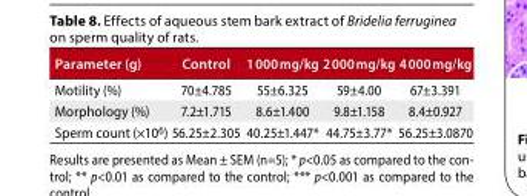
<table><thead><tr><td>Parameter (g)</td><td>Control</td><td>1 000 mg/kg</td><td>2 000 mg/kg</td><td>4 000 mg/kg</td></tr></thead><tbody><tr><td>Motility (%)</td><td>70±4.785</td><td>55±6.325</td><td>59±4.00</td><td>67±3.391</td></tr><tr><td>Morphology (%)</td><td>7.2±1.715</td><td>8.6±1.400</td><td>9.8±1.158</td><td>8.4±0.927</td></tr><tr><td>Sperm count (×10<sup>6</sup>)</td><td>56.25±2.305</td><td>40.25±1.447*</td><td>44.75±3.77*</td><td>56.25±3.0870</td></tr></tbody></table>